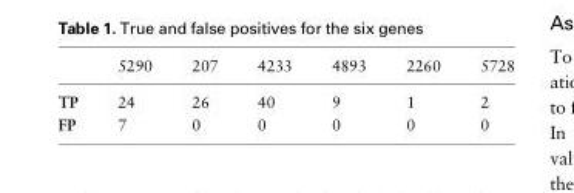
<table><thead><tr><td></td><td>5290</td><td>207</td><td>4233</td><td>4893</td><td>2260</td><td>5728</td></tr></thead><tbody><tr><td>TP</td><td>24</td><td>26</td><td>40</td><td>9</td><td>1</td><td>2</td></tr><tr><td>FP</td><td>7</td><td>0</td><td>0</td><td>0</td><td>0</td><td>0</td></tr></tbody></table>